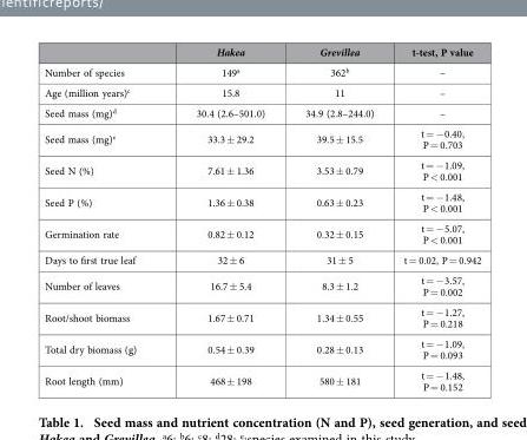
<table><thead><tr><td></td><td>Hakea</td><td>Grevillea</td><td>t-test, P value</td></tr></thead><tbody><tr><td>Number of species</td><td>149<sup>a</sup></td><td>362<sup>b</sup></td><td>–</td></tr><tr><td>Age (million years)<sup>c</sup></td><td>15.8</td><td>11</td><td>–</td></tr><tr><td>Seed mass (mg)<sup>d</sup></td><td>30.4 (2.6–501.0)</td><td>34.9 (2.8–244.0)</td><td>–</td></tr><tr><td>Seed mass (mg)<sup>e</sup></td><td>33.3 ± 29.2</td><td>39.5 ± 15.5</td><td>t = − 0.40, P = 0.703</td></tr><tr><td>Seed N (%)</td><td>7.61 ± 1.36</td><td>3.53 ± 0.79</td><td>t = − 1.09, P &lt; 0.001</td></tr><tr><td>Seed P (%)</td><td>1.36 ± 0.38</td><td>0.63 ± 0.23</td><td>t = − 1.48, P &lt; 0.001</td></tr><tr><td>Germination rate</td><td>0.82 ± 0.12</td><td>0.32 ± 0.15</td><td>t = − 5.07, P &lt; 0.001</td></tr><tr><td>Days to first true leaf</td><td>32 ± 6</td><td>31 ± 5</td><td>t = 0.02, P = 0.942</td></tr><tr><td>Number of leaves</td><td>16.7 ± 5.4</td><td>8.3 ± 1.2</td><td>t = − 3.57, P = 0.002</td></tr><tr><td>Root/shoot biomass</td><td>1.67 ± 0.71</td><td>1.34 ± 0.55</td><td>t = − 1.27, P = 0.218</td></tr><tr><td>Total dry biomass (g)</td><td>0.54 ± 0.39</td><td>0.28 ± 0.13</td><td>t = − 1.09, P = 0.093</td></tr><tr><td>Root length (mm)</td><td>468 ± 198</td><td>580 ± 181</td><td>t = − 1.48, P = 0.152</td></tr></tbody></table>